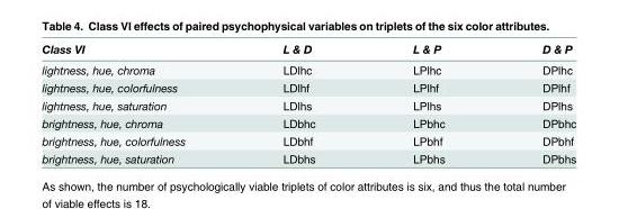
<table><thead><tr><td>Class VI</td><td>L &amp; D</td><td>L &amp; P</td><td>D &amp; P</td></tr></thead><tbody><tr><td>lightness, hue, chroma</td><td>LDlhc</td><td>LPlhc</td><td>DPlhc</td></tr><tr><td>lightness, hue, colorfulness</td><td>LDlhf</td><td>LPlhf</td><td>DPlhf</td></tr><tr><td>lightness, hue, saturation</td><td>LDlhs</td><td>LPlhs</td><td>DPlhs</td></tr><tr><td>brightness, hue, chroma</td><td>LDbhc</td><td>LPbhc</td><td>DPbhc</td></tr><tr><td>brightness, hue, colorfulness</td><td>LDbhf</td><td>LPbhf</td><td>DPbhf</td></tr><tr><td>brightness, hue, saturation</td><td>LDbhs</td><td>LPbhs</td><td>DPbhs</td></tr></tbody></table>